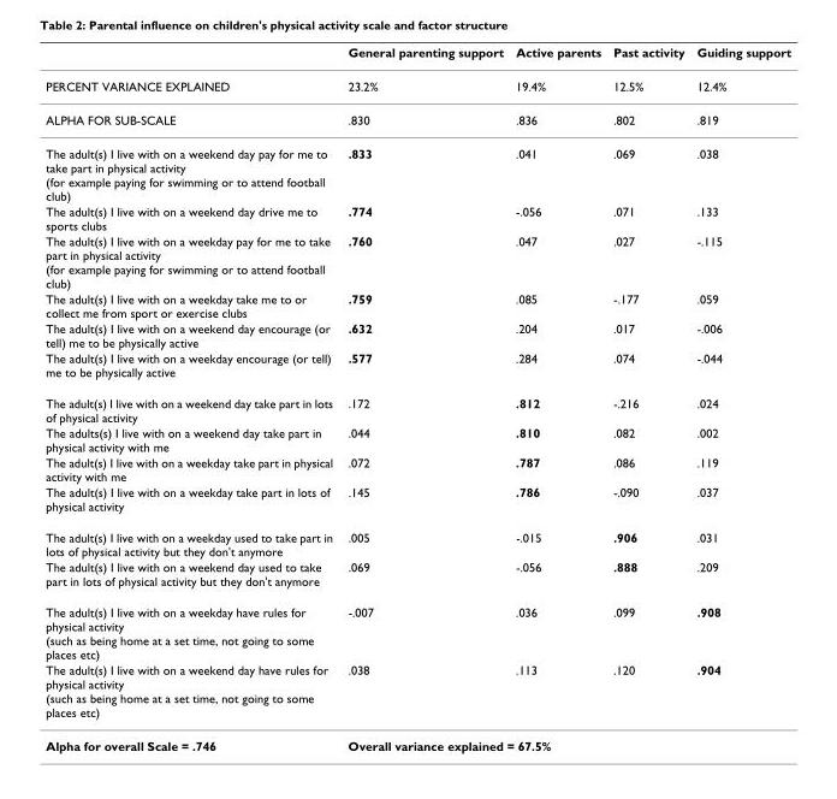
<table><thead><tr><td></td><td>General parenting support</td><td>Active parents</td><td>Past activity</td><td>Guiding support</td></tr></thead><tbody><tr><td>PERCENT VARIANCE EXPLAINED</td><td>23.2%</td><td>19.4%</td><td>12.5%</td><td>12.4%</td></tr><tr><td>ALPHA FOR SUB-SCALE</td><td>.830</td><td>.836</td><td>.802</td><td>.819</td></tr><tr><td>The adult(s) I live with on a weekend day pay for me to take part in physical activity (for example paying for swimming or to attend football club)</td><td>.833</td><td>.041</td><td>.069</td><td>.038</td></tr><tr><td>The adult(s) I live with on a weekend day drive me to sports clubs</td><td>.774</td><td>-.056</td><td>.071</td><td>.133</td></tr><tr><td>The adult(s) I live with on a weekday pay for me to take part in physical activity (for example paying for swimming or to attend football club)</td><td>.760</td><td>.047</td><td>.027</td><td>-.115</td></tr><tr><td>The adult(s) I live with on a weekday take me to or collect me from sport or exercise clubs</td><td>.759</td><td>.085</td><td>-.177</td><td>.059</td></tr><tr><td>The adult(s) I live with on a weekend day encourage (or tell) me to be physically active</td><td>.632</td><td>.204</td><td>.017</td><td>-.006</td></tr><tr><td>The adult(s) I live with on a weekday encourage (or tell) me to be physically active</td><td>.577</td><td>.284</td><td>.074</td><td>-.044</td></tr><tr><td>The adult(s) I live with on a weekend day take part in lots of physical activity</td><td>.172</td><td>.812</td><td>-.216</td><td>.024</td></tr><tr><td>The adults(s) I live with on a weekend day take part in physical activity with me</td><td>.044</td><td>.810</td><td>.082</td><td>.002</td></tr><tr><td>The adult(s) I live with on a weekday take part in physical activity with me</td><td>.072</td><td>.787</td><td>.086</td><td>.119</td></tr><tr><td>The adult(s) I live with on a weekday take part in lots of physical activity</td><td>.145</td><td>.786</td><td>-.090</td><td>.037</td></tr><tr><td>The adult(s) I live with on a weekday used to take part in lots of physical activity but they don&#x27;t anymore</td><td>.005</td><td>-.015</td><td>.906</td><td>.031</td></tr><tr><td>The adult(s) I live with on a weekend day used to take part in lots of physical activity but they don&#x27;t anymore</td><td>.069</td><td>-.056</td><td>.888</td><td>.209</td></tr><tr><td>The adult(s) I live with on a weekday have rules for physical activity (such as being home at a set time, not going to some places etc)</td><td>-.007</td><td>.036</td><td>.099</td><td>.908</td></tr><tr><td>The adult(s) I live with on a weekend day have rules for physical activity (such as being home at a set time, not going to some places etc)</td><td>.038</td><td>.113</td><td>.120</td><td>.904</td></tr><tr><td>Alpha for overall Scale = .746</td><td colspan="4">Overall variance explained = 67.5%</td></tr></tbody></table>